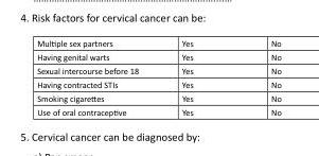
<table><tbody><tr><td>Multiple sex partners</td><td>Yes</td><td>No</td></tr><tr><td>Having genital warts</td><td>Yes</td><td>No</td></tr><tr><td>Sexual intercourse before 18</td><td>Yes</td><td>No</td></tr><tr><td>Having contracted STIs</td><td>Yes</td><td>No</td></tr><tr><td>Smoking cigarettes</td><td>Yes</td><td>No</td></tr><tr><td>Use of oral contraceptive</td><td>Yes</td><td>No</td></tr></tbody></table>